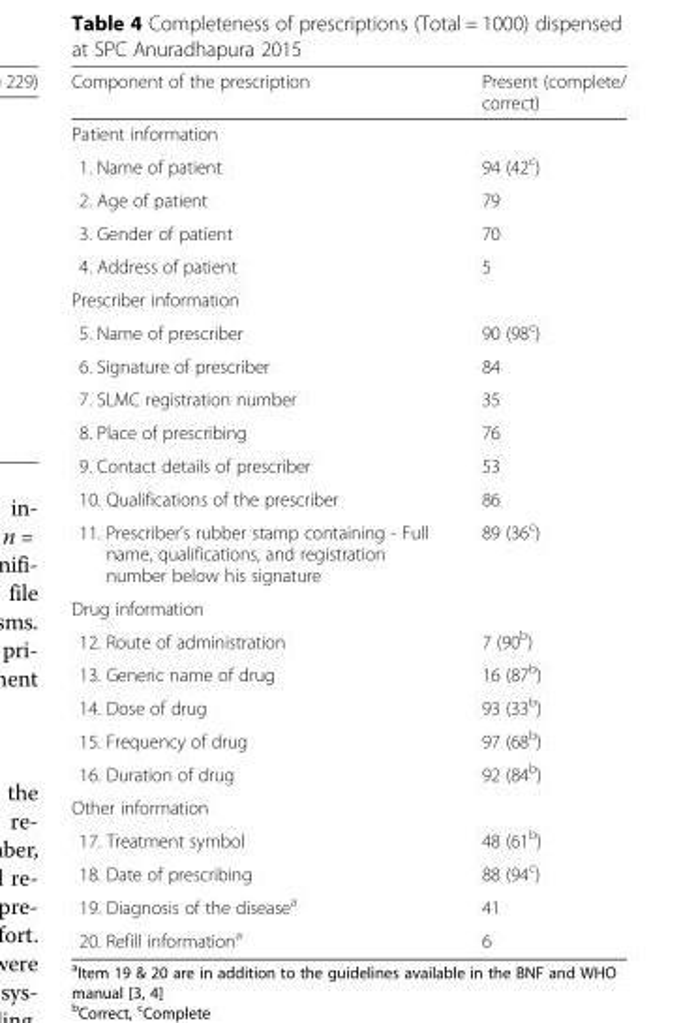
<table><thead><tr><td>Component of the prescription</td><td>Present (complete/ correct)</td></tr></thead><tbody><tr><td colspan="2">Patient information</td></tr><tr><td>1. Name of patient</td><td>94 (42<sup>c</sup>)</td></tr><tr><td>2. Age of patient</td><td>79</td></tr><tr><td>3. Gender of patient</td><td>70</td></tr><tr><td>4. Address of patient</td><td>5</td></tr><tr><td colspan="2">Prescriber information</td></tr><tr><td>5. Name of prescriber</td><td>90 (98<sup>c</sup>)</td></tr><tr><td>6. Signature of prescriber</td><td>84</td></tr><tr><td>7. SLMC registration number</td><td>35</td></tr><tr><td>8. Place of prescribing</td><td>76</td></tr><tr><td>9. Contact details of prescriber</td><td>53</td></tr><tr><td>10. Qualifications of the prescriber</td><td>86</td></tr><tr><td>11. Prescriber&#x27;s rubber stamp containing - Full name, qualifications, and registration number below his signature</td><td>89 (36<sup>c</sup>)</td></tr><tr><td colspan="2">Drug information</td></tr><tr><td>12. Route of administration</td><td>7 (90<sup>b</sup>)</td></tr><tr><td>13. Generic name of drug</td><td>16 (87<sup>b</sup>)</td></tr><tr><td>14. Dose of drug</td><td>93 (33<sup>b</sup>)</td></tr><tr><td>15. Frequency of drug</td><td>97 (68<sup>b</sup>)</td></tr><tr><td>16. Duration of drug</td><td>92 (84<sup>b</sup>)</td></tr><tr><td colspan="2">Other information</td></tr><tr><td>17. Treatment symbol</td><td>48 (61<sup>b</sup>)</td></tr><tr><td>18. Date of prescribing</td><td>88 (94<sup>c</sup>)</td></tr><tr><td>19. Diagnosis of the disease<sup>a</sup></td><td>41</td></tr><tr><td>20. Refill information<sup>a</sup></td><td>6</td></tr></tbody></table>